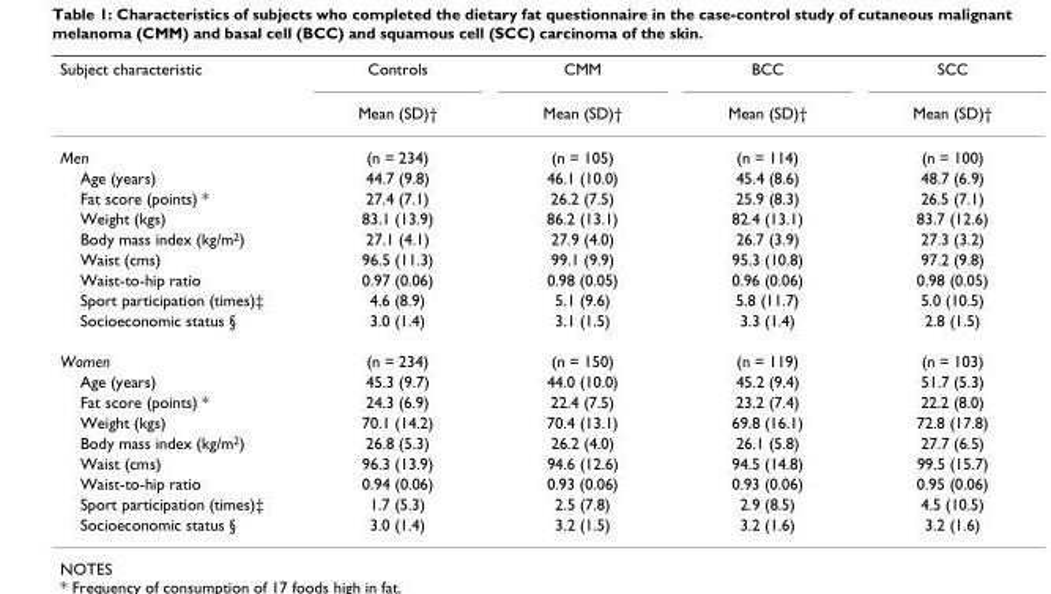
<table><thead><tr><td rowspan="2">Subject characteristic</td><td rowspan="2">Controls Mean (SD)†</td><td rowspan="2">CMM Mean (SD)†</td><td rowspan="2">BCC Mean (SD)†</td><td rowspan="2">SCC Mean (SD)†</td></tr><tr></tr></thead><tbody><tr><td>Men</td><td>(n = 234)</td><td>(n = 105)</td><td>(n = 114)</td><td>(n = 100)</td></tr><tr><td>Age (years)</td><td>44.7 (9.8)</td><td>46.1 (10.0)</td><td>45.4 (8.6)</td><td>48.7 (6.9)</td></tr><tr><td>Fat score (points) *</td><td>27.4 (7.1)</td><td>26.2 (7.5)</td><td>25.9 (8.3)</td><td>26.5 (7.1)</td></tr><tr><td>Weight (kgs)</td><td>83.1 (13.9)</td><td>86.2 (13.1)</td><td>82.4 (13.1)</td><td>83.7 (12.6)</td></tr><tr><td>Body mass index (kg/m2)</td><td>27.1 (4.1)</td><td>27.9 (4.0)</td><td>26.7 (3.9)</td><td>27.3 (3.2)</td></tr><tr><td>Waist (cms)</td><td>96.5 (11.3)</td><td>99.1 (9.9)</td><td>95.3 (10.8)</td><td>97.2 (9.8)</td></tr><tr><td>Waist-to-hip ratio</td><td>0.97 (0.06)</td><td>0.98 (0.05)</td><td>0.96 (0.06)</td><td>0.98 (0.05)</td></tr><tr><td>Sport participation (times)‡</td><td>4.6 (8.9)</td><td>5.1 (9.6)</td><td>5.8 (11.7)</td><td>5.0 (10.5)</td></tr><tr><td>Socioeconomic status §</td><td>3.0 (1.4)</td><td>3.1 (1.5)</td><td>3.3 (1.4)</td><td>2.8 (1.5)</td></tr><tr><td>Women</td><td>(n = 234)</td><td>(n = 150)</td><td>(n = 119)</td><td>(n = 103)</td></tr><tr><td>Age (years)</td><td>45.3 (9.7)</td><td>44.0 (10.0)</td><td>45.2 (9.4)</td><td>51.7 (5.3)</td></tr><tr><td>Fat score (points) *</td><td>24.3 (6.9)</td><td>22.4 (7.5)</td><td>23.2 (7.4)</td><td>22.2 (8.0)</td></tr><tr><td>Weight (kgs)</td><td>70.1 (14.2)</td><td>70.4 (13.1)</td><td>69.8 (16.1)</td><td>72.8 (17.8)</td></tr><tr><td>Body mass index (kg/m2)</td><td>26.8 (5.3)</td><td>26.2 (4.0)</td><td>26.1 (5.8)</td><td>27.7 (6.5)</td></tr><tr><td>Waist (cms)</td><td>96.3 (13.9)</td><td>94.6 (12.6)</td><td>94.5 (14.8)</td><td>99.5 (15.7)</td></tr><tr><td>Waist-to-hip ratio</td><td>0.94 (0.06)</td><td>0.93 (0.06)</td><td>0.93 (0.06)</td><td>0.95 (0.06)</td></tr><tr><td>Sport participation (times)‡</td><td>1.7 (5.3)</td><td>2.5 (7.8)</td><td>2.9 (8.5)</td><td>4.5 (10.5)</td></tr><tr><td>Socioeconomic status §</td><td>3.0 (1.4)</td><td>3.2 (1.5)</td><td>3.2 (1.6)</td><td>3.2 (1.6)</td></tr></tbody></table>